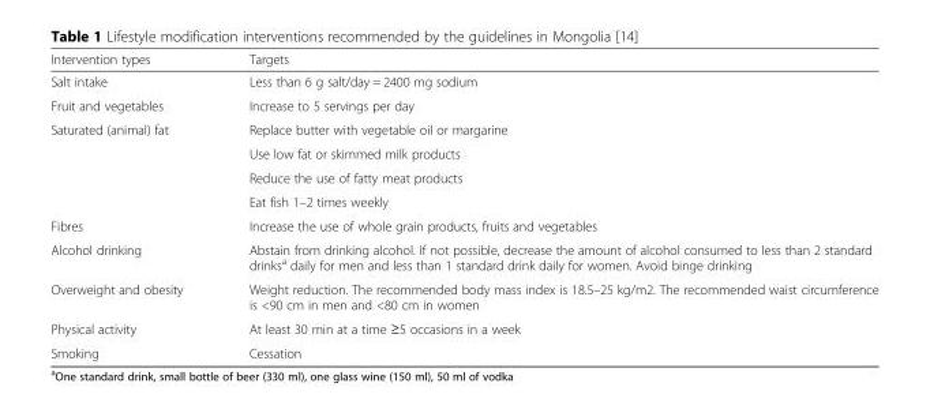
<table><thead><tr><td>Intervention types</td><td>Targets</td></tr></thead><tbody><tr><td>Salt intake</td><td>Less than 6 g salt/day = 2400 mg sodium</td></tr><tr><td>Fruit and vegetables</td><td>Increase to 5 servings per day</td></tr><tr><td rowspan="4">Saturated (animal) fat</td><td>Replace butter with vegetable oil or margarine</td></tr><tr><td>Use low fat or skimmed milk products</td></tr><tr><td>Reduce the use of fatty meat products</td></tr><tr><td>Eat fish 1–2 times weekly</td></tr><tr><td>Fibres</td><td>Increase the use of whole grain products, fruits and vegetables</td></tr><tr><td>Alcohol drinking</td><td>Abstain from drinking alcohol. If not possible, decrease the amount of alcohol consumed to less than 2 standard drinks<sup>a</sup> daily for men and less than 1 standard drink daily for women. Avoid binge drinking</td></tr><tr><td>Overweight and obesity</td><td>Weight reduction. The recommended body mass index is 18.5–25 kg/m2. The recommended waist circumference is &lt;90 cm in men and &lt;80 cm in women</td></tr><tr><td>Physical activity</td><td>At least 30 min at a time ≥5 occasions in a week</td></tr><tr><td>Smoking</td><td>Cessation</td></tr></tbody></table>